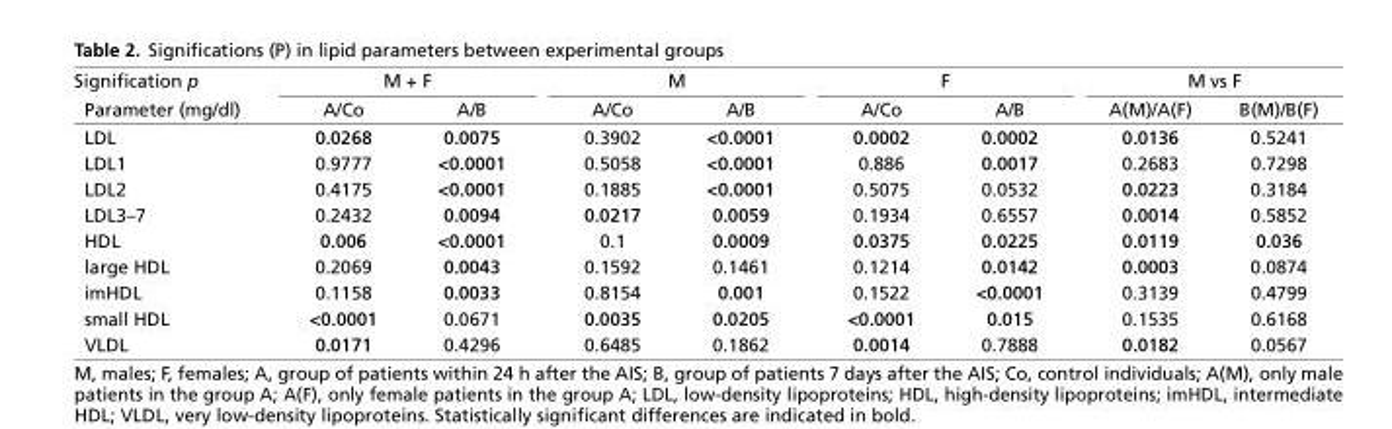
<table><thead><tr><td rowspan="2">Signification p Parameter (mg/dl)</td><td colspan="2">M + F</td><td colspan="2">M</td><td colspan="2">F</td><td colspan="2">M vs F</td></tr><tr><td>A/Co</td><td>A/B</td><td>A/Co</td><td>A/B</td><td>A/Co</td><td>A/B</td><td>A(M)/A(F)</td><td>B(M)/B(F)</td></tr></thead><tbody><tr><td>LDL</td><td>0.0268</td><td>0.0075</td><td>0.3902</td><td>&lt;0.0001</td><td>0.0002</td><td>0.0002</td><td>0.0136</td><td>0.5241</td></tr><tr><td>LDL1</td><td>0.9777</td><td>&lt;0.0001</td><td>0.5058</td><td>&lt;0.0001</td><td>0.886</td><td>0.0017</td><td>0.2683</td><td>0.7298</td></tr><tr><td>LDL2</td><td>0.4175</td><td>&lt;0.0001</td><td>0.1885</td><td>&lt;0.0001</td><td>0.5075</td><td>0.0532</td><td>0.0223</td><td>0.3184</td></tr><tr><td>LDL3–7</td><td>0.2432</td><td>0.0094</td><td>0.0217</td><td>0.0059</td><td>0.1934</td><td>0.6557</td><td>0.0014</td><td>0.5852</td></tr><tr><td>HDL</td><td>0.006</td><td>&lt;0.0001</td><td>0.1</td><td>0.0009</td><td>0.0375</td><td>0.0225</td><td>0.0119</td><td>0.036</td></tr><tr><td>large HDL</td><td>0.2069</td><td>0.0043</td><td>0.1592</td><td>0.1461</td><td>0.1214</td><td>0.0142</td><td>0.0003</td><td>0.0874</td></tr><tr><td>imHDL</td><td>0.1158</td><td>0.0033</td><td>0.8154</td><td>0.001</td><td>0.1522</td><td>&lt;0.0001</td><td>0.3139</td><td>0.4799</td></tr><tr><td>small HDL</td><td>&lt;0.0001</td><td>0.0671</td><td>0.0035</td><td>0.0205</td><td>&lt;0.0001</td><td>0.015</td><td>0.1535</td><td>0.6168</td></tr><tr><td>VLDL</td><td>0.0171</td><td>0.4296</td><td>0.6485</td><td>0.1862</td><td>0.0014</td><td>0.7888</td><td>0.0182</td><td>0.0567</td></tr></tbody></table>